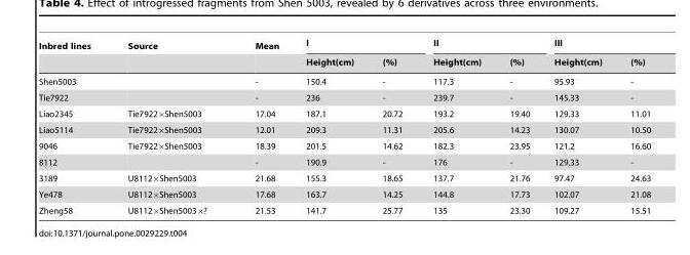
<table><thead><tr><td rowspan="2">Inbred lines</td><td rowspan="2">Source</td><td rowspan="2">Mean</td><td colspan="2">I</td><td colspan="2">II</td><td colspan="2">III</td></tr><tr><td>Height(cm)</td><td>(%)</td><td>Height(cm)</td><td>(%)</td><td>Height(cm)</td><td>(%)</td></tr></thead><tbody><tr><td>Shen5003</td><td></td><td>-</td><td>150.4</td><td>-</td><td>117.3</td><td>-</td><td>95.93</td><td>-</td></tr><tr><td>Tie7922</td><td></td><td>-</td><td>236</td><td>-</td><td>239.7</td><td>-</td><td>145.33</td><td>-</td></tr><tr><td>Liao2345</td><td>Tie7922×Shen5003</td><td>17.04</td><td>187.1</td><td>20.72</td><td>193.2</td><td>19.40</td><td>129.33</td><td>11.01</td></tr><tr><td>Liao5114</td><td>Tie7922×Shen5003</td><td>12.01</td><td>209.3</td><td>11.31</td><td>205.6</td><td>14.23</td><td>130.07</td><td>10.50</td></tr><tr><td>9046</td><td>Tie7922×Shen5003</td><td>18.39</td><td>201.5</td><td>14.62</td><td>182.3</td><td>23.95</td><td>121.2</td><td>16.60</td></tr><tr><td>8112</td><td></td><td>-</td><td>190.9</td><td>-</td><td>176</td><td>-</td><td>129.33</td><td>-</td></tr><tr><td>3189</td><td>U8112×Shen5003</td><td>21.68</td><td>155.3</td><td>18.65</td><td>137.7</td><td>21.76</td><td>97.47</td><td>24.63</td></tr><tr><td>Ye478</td><td>U8112×Shen5003</td><td>17.68</td><td>163.7</td><td>14.25</td><td>144.8</td><td>17.73</td><td>102.07</td><td>21.08</td></tr><tr><td>Zheng58</td><td>U8112×Shen5003×?</td><td>21.53</td><td>141.7</td><td>25.77</td><td>135</td><td>23.30</td><td>109.27</td><td>15.51</td></tr></tbody></table>